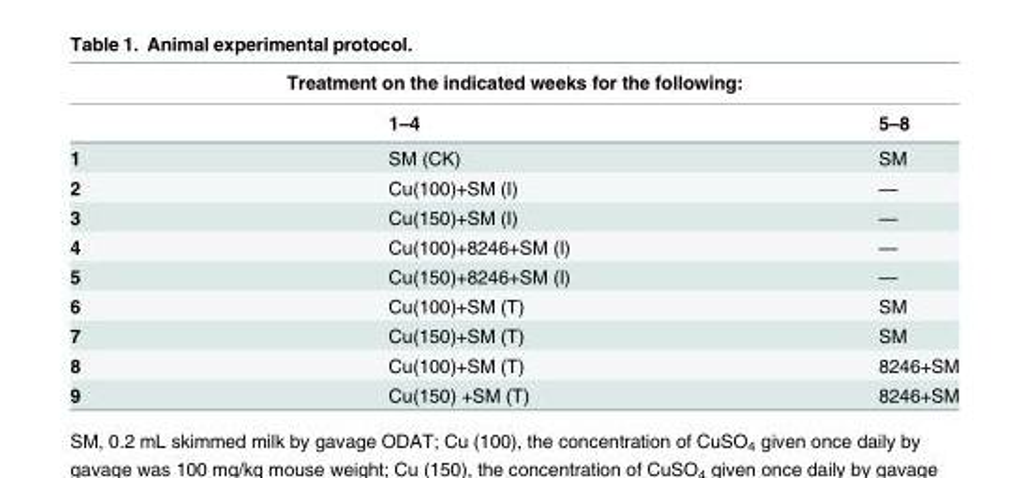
<table><thead><tr><td colspan="3">Treatment on the indicated weeks for the following:</td></tr><tr><td></td><td>1–4</td><td>5–8</td></tr></thead><tbody><tr><td>1</td><td>SM (CK)</td><td>SM</td></tr><tr><td>2</td><td>Cu(100)+SM (I)</td><td>—</td></tr><tr><td>3</td><td>Cu(150)+SM (I)</td><td>—</td></tr><tr><td>4</td><td>Cu(100)+8246+SM (I)</td><td>—</td></tr><tr><td>5</td><td>Cu(150)+8246+SM (I)</td><td>—</td></tr><tr><td>6</td><td>Cu(100)+SM (T)</td><td>SM</td></tr><tr><td>7</td><td>Cu(150)+SM (T)</td><td>SM</td></tr><tr><td>8</td><td>Cu(100)+SM (T)</td><td>8246+SM</td></tr><tr><td>9</td><td>Cu(150) +SM (T)</td><td>8246+SM</td></tr></tbody></table>